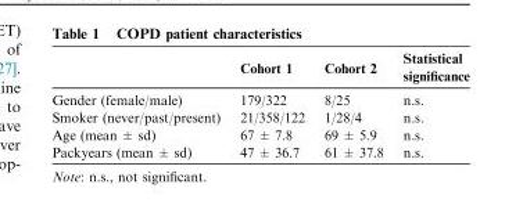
<table><thead><tr><td></td><td>Cohort 1</td><td>Cohort 2</td><td>Statistical significance</td></tr></thead><tbody><tr><td>Gender (female/male)</td><td>179/322</td><td>8/25</td><td>n.s.</td></tr><tr><td>Smoker (never/past/present)</td><td>21/358/122</td><td>1/28/4</td><td>n.s.</td></tr><tr><td>Age (mean ± sd)</td><td>67 ± 7.8</td><td>69 ± 5.9</td><td>n.s.</td></tr><tr><td>Packyears (mean ± sd)</td><td>47 ± 36.7</td><td>61 ± 37.8</td><td>n.s.</td></tr></tbody></table>